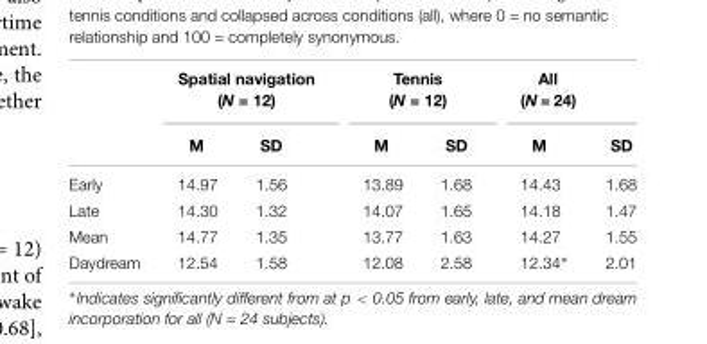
<table><thead><tr><td rowspan="2"></td><td colspan="2">Spatial navigation (N = 12)</td><td colspan="2">Tennis (N = 12)</td><td colspan="2">All (N = 24)</td></tr><tr><td>M</td><td>SD</td><td>M</td><td>SD</td><td>M</td><td>SD</td></tr></thead><tbody><tr><td>Early</td><td>14.97</td><td>1.56</td><td>13.89</td><td>1.68</td><td>14.43</td><td>1.68</td></tr><tr><td>Late</td><td>14.30</td><td>1.32</td><td>14.07</td><td>1.65</td><td>14.18</td><td>1.47</td></tr><tr><td>Mean</td><td>14.77</td><td>1.35</td><td>13.77</td><td>1.63</td><td>14.27</td><td>1.55</td></tr><tr><td>Daydream</td><td>12.54</td><td>1.58</td><td>12.08</td><td>2.58</td><td>12.34∗</td><td>2.01</td></tr></tbody></table>